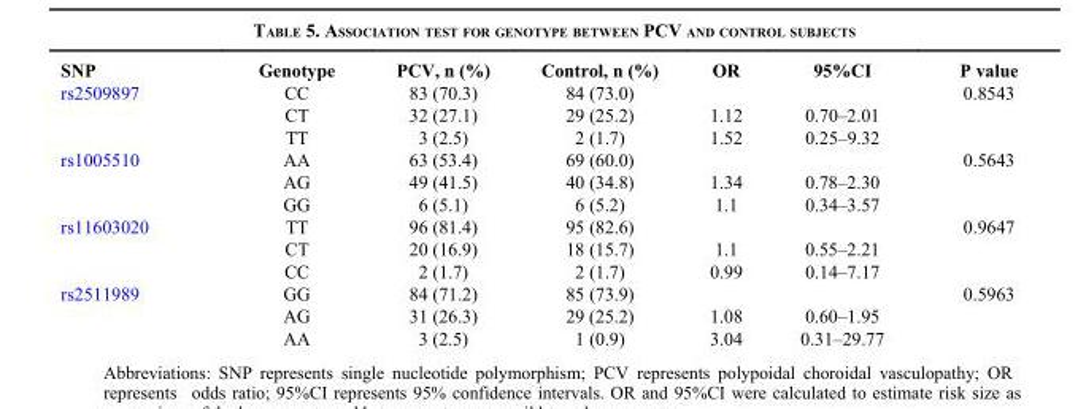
<table><thead><tr><td>SNP</td><td>Genotype</td><td>PCV, n (%)</td><td>Control, n (%)</td><td>OR</td><td>95%CI</td><td>P value</td></tr></thead><tbody><tr><td rowspan="3">rs2509897</td><td>CC</td><td>83 (70.3)</td><td>84 (73.0)</td><td></td><td></td><td>0.8543</td></tr><tr><td>CT</td><td>32 (27.1)</td><td>29 (25.2)</td><td>1.12</td><td>0.70–2.01</td><td></td></tr><tr><td>TT</td><td>3 (2.5)</td><td>2 (1.7)</td><td>1.52</td><td>0.25–9.32</td><td></td></tr><tr><td rowspan="3">rs1005510</td><td>AA</td><td>63 (53.4)</td><td>69 (60.0)</td><td></td><td></td><td>0.5643</td></tr><tr><td>AG</td><td>49 (41.5)</td><td>40 (34.8)</td><td>1.34</td><td>0.78–2.30</td><td></td></tr><tr><td>GG</td><td>6 (5.1)</td><td>6 (5.2)</td><td>1.1</td><td>0.34–3.57</td><td></td></tr><tr><td rowspan="3">rs11603020</td><td>TT</td><td>96 (81.4)</td><td>95 (82.6)</td><td></td><td></td><td>0.9647</td></tr><tr><td>CT</td><td>20 (16.9)</td><td>18 (15.7)</td><td>1.1</td><td>0.55–2.21</td><td></td></tr><tr><td>CC</td><td>2 (1.7)</td><td>2 (1.7)</td><td>0.99</td><td>0.14–7.17</td><td></td></tr><tr><td rowspan="3">rs2511989</td><td>GG</td><td>84 (71.2)</td><td>85 (73.9)</td><td></td><td></td><td>0.5963</td></tr><tr><td>AG</td><td>31 (26.3)</td><td>29 (25.2)</td><td>1.08</td><td>0.60–1.95</td><td></td></tr><tr><td>AA</td><td>3 (2.5)</td><td>1 (0.9)</td><td>3.04</td><td>0.31–29.77</td><td></td></tr></tbody></table>